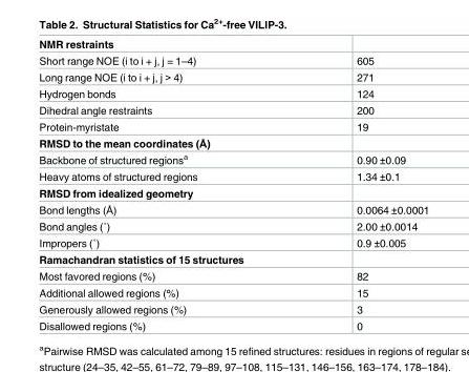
<table><tbody><tr><td colspan="2">NMR restraints</td></tr><tr><td>Short range NOE (i to i + j, j = 1–4)</td><td>605</td></tr><tr><td>Long range NOE (i to i + j, j &gt; 4)</td><td>271</td></tr><tr><td>Hydrogen bonds</td><td>124</td></tr><tr><td>Dihedral angle restraints</td><td>200</td></tr><tr><td>Protein-myristate</td><td>19</td></tr><tr><td colspan="2">RMSD to the mean coordinates (Å)</td></tr><tr><td>Backbone of structured regions<sup>a</sup></td><td>0.90 ±0.09</td></tr><tr><td>Heavy atoms of structured regions</td><td>1.34 ±0.1</td></tr><tr><td colspan="2">RMSD from idealized geometry</td></tr><tr><td>Bond lengths (Å)</td><td>0.0064 ±0.0001</td></tr><tr><td>Bond angles (˚)</td><td>2.00 ±0.0014</td></tr><tr><td>Impropers (˚)</td><td>0.9 ±0.005</td></tr><tr><td colspan="2">Ramachandran statistics of 15 structures</td></tr><tr><td>Most favored regions (%)</td><td>82</td></tr><tr><td>Additional allowed regions (%)</td><td>15</td></tr><tr><td>Generously allowed regions (%)</td><td>3</td></tr><tr><td>Disallowed regions (%)</td><td>0</td></tr></tbody></table>